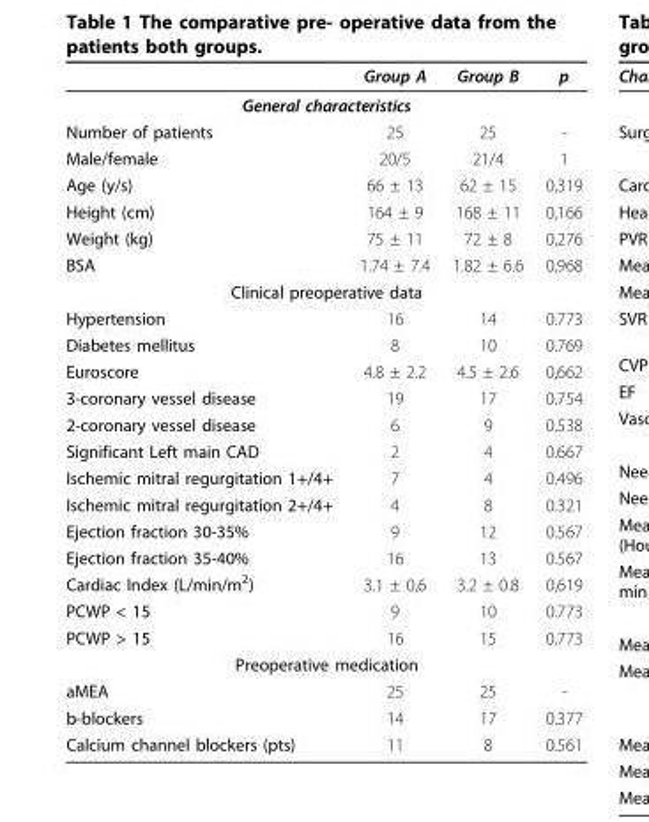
<table><thead><tr><td></td><td>Group A</td><td>Group B</td><td>p</td></tr></thead><tbody><tr><td colspan="4">General characteristics</td></tr><tr><td>Number of patients</td><td>25</td><td>25</td><td>-</td></tr><tr><td>Male/female</td><td>20/5</td><td>21/4</td><td>1</td></tr><tr><td>Age (y/s)</td><td>66 ± 13</td><td>62 ± 15</td><td>0,319</td></tr><tr><td>Height (cm)</td><td>164 ± 9</td><td>168 ± 11</td><td>0,166</td></tr><tr><td>Weight (kg)</td><td>75 ± 11</td><td>72 ± 8</td><td>0,276</td></tr><tr><td>BSA</td><td>1.74 ± 7.4</td><td>1.82 ± 6.6</td><td>0,968</td></tr><tr><td colspan="4">Clinical preoperative data</td></tr><tr><td>Hypertension</td><td>16</td><td>14</td><td>0.773</td></tr><tr><td>Diabetes mellitus</td><td>8</td><td>10</td><td>0.769</td></tr><tr><td>Euroscore</td><td>4.8 ± 2.2</td><td>4.5 ± 2.6</td><td>0,662</td></tr><tr><td>3-coronary vessel disease</td><td>19</td><td>17</td><td>0.754</td></tr><tr><td>2-coronary vessel disease</td><td>6</td><td>9</td><td>0.538</td></tr><tr><td>Significant Left main CAD</td><td>2</td><td>4</td><td>0.667</td></tr><tr><td>Ischemic mitral regurgitation 1+/4+</td><td>7</td><td>4</td><td>0.496</td></tr><tr><td>Ischemic mitral regurgitation 2+/4+</td><td>4</td><td>8</td><td>0.321</td></tr><tr><td>Ejection fraction 30-35%</td><td>9</td><td>12</td><td>0.567</td></tr><tr><td>Ejection fraction 35-40%</td><td>16</td><td>13</td><td>0.567</td></tr><tr><td>Cardiac Index (L/min/m<sup>2</sup>)</td><td>3.1 ± 0,6</td><td>3.2 ± 0.8</td><td>0,619</td></tr><tr><td>PCWP &lt; 15</td><td>9</td><td>10</td><td>0.773</td></tr><tr><td>PCWP &gt; 15</td><td>16</td><td>15</td><td>0.773</td></tr><tr><td colspan="4">Preoperative medication</td></tr><tr><td>aMEA</td><td>25</td><td>25</td><td>-</td></tr><tr><td>b-blockers</td><td>14</td><td>17</td><td>0.377</td></tr><tr><td>Calcium channel blockers (pts)</td><td>11</td><td>8</td><td>0.561</td></tr></tbody></table>